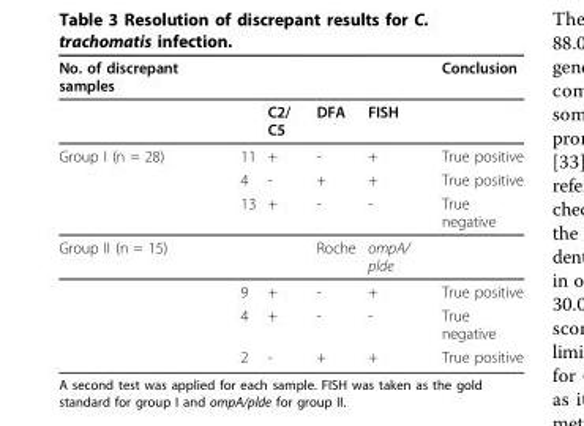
<table><thead><tr><td>No. of discrepant samples</td><td></td><td></td><td></td><td></td><td>Conclusion</td></tr></thead><tbody><tr><td></td><td></td><td>C2/ C5</td><td>DFA</td><td>FISH</td><td></td></tr><tr><td rowspan="3">Group I (n = 28)</td><td>11</td><td>+</td><td>-</td><td>+</td><td>True positive</td></tr><tr><td>4</td><td>-</td><td>+</td><td>+</td><td>True positive</td></tr><tr><td>13</td><td>+</td><td>-</td><td>-</td><td>True negative</td></tr><tr><td rowspan="4">Group II (n = 15)</td><td></td><td></td><td>Roche</td><td>ompA/ plde</td><td></td></tr><tr><td>9</td><td>+</td><td>-</td><td>+</td><td>True positive</td></tr><tr><td>4</td><td>+</td><td>-</td><td>-</td><td>True negative</td></tr><tr><td>2</td><td>-</td><td>+</td><td>+</td><td>True positive</td></tr></tbody></table>